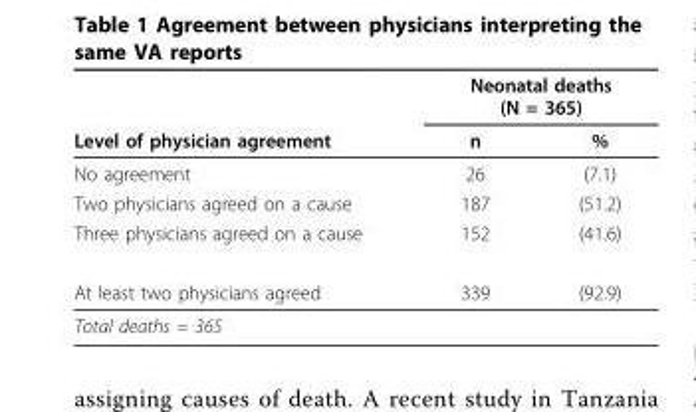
<table><thead><tr><td rowspan="2">Level of physician agreement</td><td colspan="2">Neonatal deaths (N = 365)</td></tr><tr><td>n</td><td>%</td></tr></thead><tbody><tr><td>No agreement</td><td>26</td><td>(7.1)</td></tr><tr><td>Two physicians agreed on a cause</td><td>187</td><td>(51.2)</td></tr><tr><td>Three physicians agreed on a cause</td><td>152</td><td>(41.6)</td></tr><tr><td>At least two physicians agreed</td><td>339</td><td>(92.9)</td></tr><tr><td>Total deaths = 365</td><td></td><td></td></tr></tbody></table>